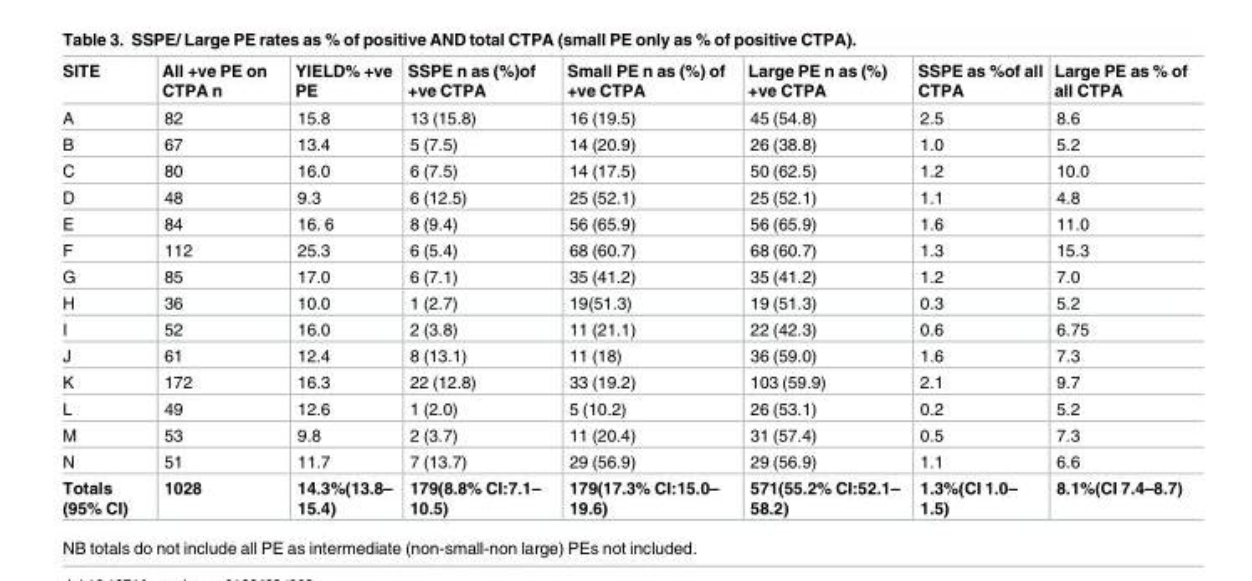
<table><thead><tr><td>SITE</td><td>All +ve PE on CTPA n</td><td>YIELD% +ve PE</td><td>SSPE n as (%)of +ve CTPA</td><td>Small PE n as (%) of +ve CTPA</td><td>Large PE n as (%) +ve CTPA</td><td>SSPE as %of all CTPA</td><td>Large PE as % of all CTPA</td></tr></thead><tbody><tr><td>A</td><td>82</td><td>15.8</td><td>13 (15.8)</td><td>16 (19.5)</td><td>45 (54.8)</td><td>2.5</td><td>8.6</td></tr><tr><td>B</td><td>67</td><td>13.4</td><td>5 (7.5)</td><td>14 (20.9)</td><td>26 (38.8)</td><td>1.0</td><td>5.2</td></tr><tr><td>C</td><td>80</td><td>16.0</td><td>6 (7.5)</td><td>14 (17.5)</td><td>50 (62.5)</td><td>1.2</td><td>10.0</td></tr><tr><td>D</td><td>48</td><td>9.3</td><td>6 (12.5)</td><td>25 (52.1)</td><td>25 (52.1)</td><td>1.1</td><td>4.8</td></tr><tr><td>E</td><td>84</td><td>16. 6</td><td>8 (9.4)</td><td>56 (65.9)</td><td>56 (65.9)</td><td>1.6</td><td>11.0</td></tr><tr><td>F</td><td>112</td><td>25.3</td><td>6 (5.4)</td><td>68 (60.7)</td><td>68 (60.7)</td><td>1.3</td><td>15.3</td></tr><tr><td>G</td><td>85</td><td>17.0</td><td>6 (7.1)</td><td>35 (41.2)</td><td>35 (41.2)</td><td>1.2</td><td>7.0</td></tr><tr><td>H</td><td>36</td><td>10.0</td><td>1 (2.7)</td><td>19(51.3)</td><td>19 (51.3)</td><td>0.3</td><td>5.2</td></tr><tr><td>I</td><td>52</td><td>16.0</td><td>2 (3.8)</td><td>11 (21.1)</td><td>22 (42.3)</td><td>0.6</td><td>6.75</td></tr><tr><td>J</td><td>61</td><td>12.4</td><td>8 (13.1)</td><td>11 (18)</td><td>36 (59.0)</td><td>1.6</td><td>7.3</td></tr><tr><td>K</td><td>172</td><td>16.3</td><td>22 (12.8)</td><td>33 (19.2)</td><td>103 (59.9)</td><td>2.1</td><td>9.7</td></tr><tr><td>L</td><td>49</td><td>12.6</td><td>1 (2.0)</td><td>5 (10.2)</td><td>26 (53.1)</td><td>0.2</td><td>5.2</td></tr><tr><td>M</td><td>53</td><td>9.8</td><td>2 (3.7)</td><td>11 (20.4)</td><td>31 (57.4)</td><td>0.5</td><td>7.3</td></tr><tr><td>N</td><td>51</td><td>11.7</td><td>7 (13.7)</td><td>29 (56.9)</td><td>29 (56.9)</td><td>1.1</td><td>6.6</td></tr><tr><td>Totals (95% CI)</td><td>1028</td><td>14.3%(13.8– 15.4)</td><td>179(8.8% CI:7.1– 10.5)</td><td>179(17.3% CI:15.0– 19.6)</td><td>571(55.2% CI:52.1– 58.2)</td><td>1.3%(CI 1.0– 1.5)</td><td>8.1%(CI 7.4–8.7)</td></tr></tbody></table>